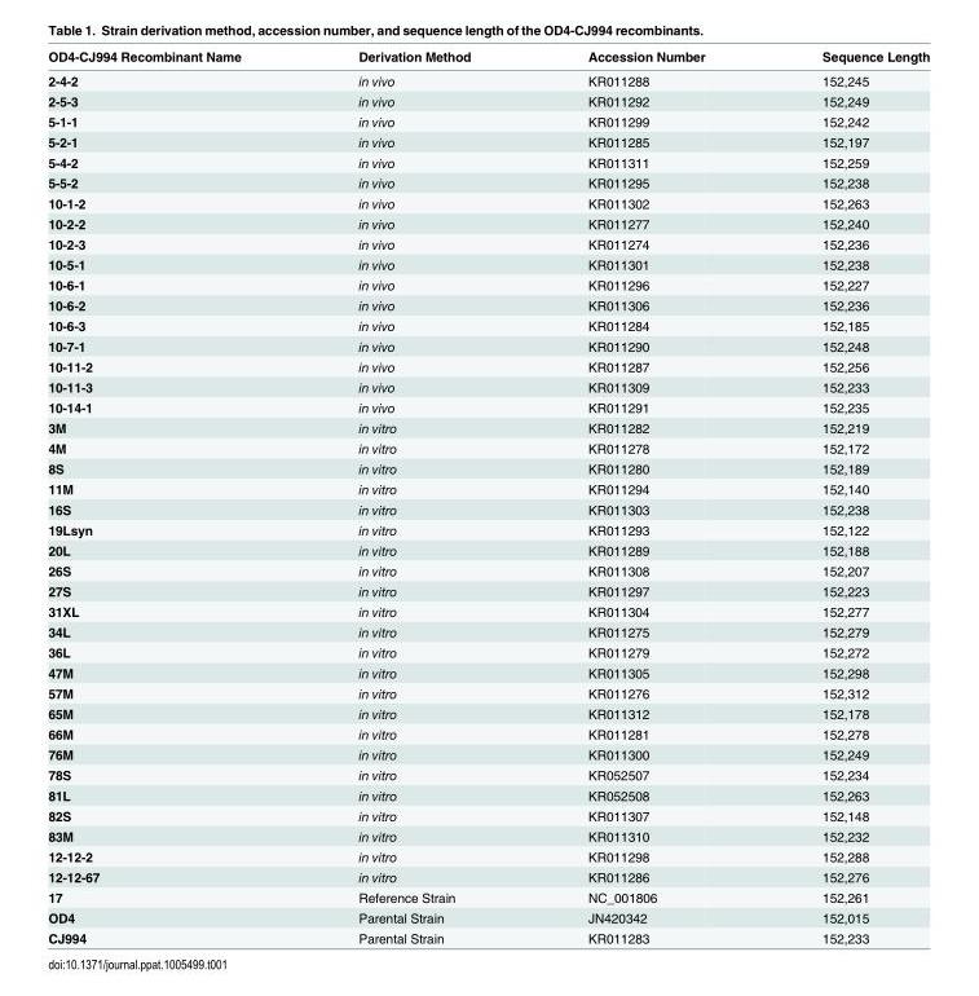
<table><thead><tr><td>OD4-CJ994 Recombinant Name</td><td>Derivation Method</td><td>Accession Number</td><td>Sequence Length</td></tr></thead><tbody><tr><td>2-4-2</td><td>in vivo</td><td>KR011288</td><td>152,245</td></tr><tr><td>2-5-3</td><td>in vivo</td><td>KR011292</td><td>152,249</td></tr><tr><td>5-1-1</td><td>in vivo</td><td>KR011299</td><td>152,242</td></tr><tr><td>5-2-1</td><td>in vivo</td><td>KR011285</td><td>152,197</td></tr><tr><td>5-4-2</td><td>in vivo</td><td>KR011311</td><td>152,259</td></tr><tr><td>5-5-2</td><td>in vivo</td><td>KR011295</td><td>152,238</td></tr><tr><td>10-1-2</td><td>in vivo</td><td>KR011302</td><td>152,263</td></tr><tr><td>10-2-2</td><td>in vivo</td><td>KR011277</td><td>152,240</td></tr><tr><td>10-2-3</td><td>in vivo</td><td>KR011274</td><td>152,236</td></tr><tr><td>10-5-1</td><td>in vivo</td><td>KR011301</td><td>152,238</td></tr><tr><td>10-6-1</td><td>in vivo</td><td>KR011296</td><td>152,227</td></tr><tr><td>10-6-2</td><td>in vivo</td><td>KR011306</td><td>152,236</td></tr><tr><td>10-6-3</td><td>in vivo</td><td>KR011284</td><td>152,185</td></tr><tr><td>10-7-1</td><td>in vivo</td><td>KR011290</td><td>152,248</td></tr><tr><td>10-11-2</td><td>in vivo</td><td>KR011287</td><td>152,256</td></tr><tr><td>10-11-3</td><td>in vivo</td><td>KR011309</td><td>152,233</td></tr><tr><td>10-14-1</td><td>in vivo</td><td>KR011291</td><td>152,235</td></tr><tr><td>3M</td><td>in vitro</td><td>KR011282</td><td>152,219</td></tr><tr><td>4M</td><td>in vitro</td><td>KR011278</td><td>152,172</td></tr><tr><td>8S</td><td>in vitro</td><td>KR011280</td><td>152,189</td></tr><tr><td>11M</td><td>in vitro</td><td>KR011294</td><td>152,140</td></tr><tr><td>16S</td><td>in vitro</td><td>KR011303</td><td>152,238</td></tr><tr><td>19Lsyn</td><td>in vitro</td><td>KR011293</td><td>152,122</td></tr><tr><td>20L</td><td>in vitro</td><td>KR011289</td><td>152,188</td></tr><tr><td>26S</td><td>in vitro</td><td>KR011308</td><td>152,207</td></tr><tr><td>27S</td><td>in vitro</td><td>KR011297</td><td>152,223</td></tr><tr><td>31XL</td><td>in vitro</td><td>KR011304</td><td>152,277</td></tr><tr><td>34L</td><td>in vitro</td><td>KR011275</td><td>152,279</td></tr><tr><td>36L</td><td>in vitro</td><td>KR011279</td><td>152,272</td></tr><tr><td>47M</td><td>in vitro</td><td>KR011305</td><td>152,298</td></tr><tr><td>57M</td><td>in vitro</td><td>KR011276</td><td>152,312</td></tr><tr><td>65M</td><td>in vitro</td><td>KR011312</td><td>152,178</td></tr><tr><td>66M</td><td>in vitro</td><td>KR011281</td><td>152,278</td></tr><tr><td>76M</td><td>in vitro</td><td>KR011300</td><td>152,249</td></tr><tr><td>78S</td><td>in vitro</td><td>KR052507</td><td>152,234</td></tr><tr><td>81L</td><td>in vitro</td><td>KR052508</td><td>152,263</td></tr><tr><td>82S</td><td>in vitro</td><td>KR011307</td><td>152,148</td></tr><tr><td>83M</td><td>in vitro</td><td>KR011310</td><td>152,232</td></tr><tr><td>12-12-2</td><td>in vitro</td><td>KR011298</td><td>152,288</td></tr><tr><td>12-12-67</td><td>in vitro</td><td>KR011286</td><td>152,276</td></tr><tr><td>17</td><td>Reference Strain</td><td>NC_001806</td><td>152,261</td></tr><tr><td>OD4</td><td>Parental Strain</td><td>JN420342</td><td>152,015</td></tr><tr><td>CJ994</td><td>Parental Strain</td><td>KR011283</td><td>152,233</td></tr></tbody></table>